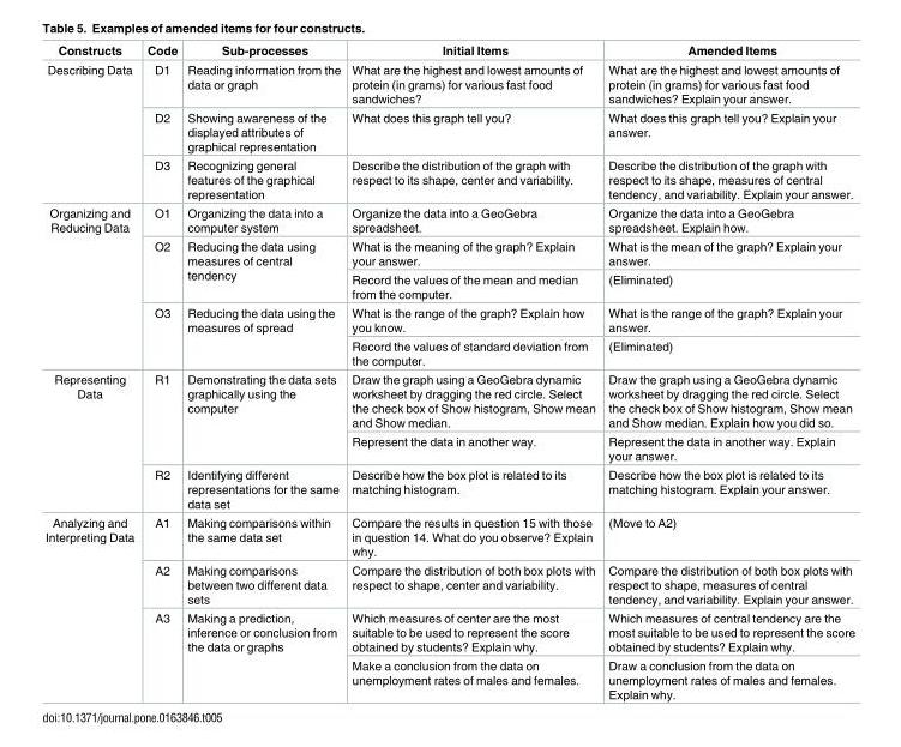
<table><thead><tr><td>Constructs</td><td>Code</td><td>Sub-processes</td><td>Initial Items</td><td>Amended Items</td></tr></thead><tbody><tr><td rowspan="3">Describing Data</td><td>D1</td><td>Reading information from the data or graph</td><td>What are the highest and lowest amounts of protein (in grams) for various fast food sandwiches?</td><td>What are the highest and lowest amounts of protein (in grams) for various fast food sandwiches? Explain your answer.</td></tr><tr><td>D2</td><td>Showing awareness of the displayed attributes of graphical representation</td><td>What does this graph tell you?</td><td>What does this graph tell you? Explain your answer.</td></tr><tr><td>D3</td><td>Recognizing general features of the graphical representation</td><td>Describe the distribution of the graph with respect to its shape, center and variability.</td><td>Describe the distribution of the graph with respect to its shape, measures of central tendency, and variability. Explain your answer.</td></tr><tr><td rowspan="5">Organizing and Reducing Data</td><td>O1</td><td>Organizing the data into a computer system</td><td>Organize the data into a GeoGebra spreadsheet.</td><td>Organize the data into a GeoGebra spreadsheet. Explain how.</td></tr><tr><td rowspan="2">O2</td><td rowspan="2">Reducing the data using measures of central tendency</td><td>What is the meaning of the graph? Explain your answer.</td><td>What is the mean of the graph? Explain your answer.</td></tr><tr><td>Record the values of the mean and median from the computer.</td><td>(Eliminated)</td></tr><tr><td rowspan="2">O3</td><td rowspan="2">Reducing the data using the measures of spread</td><td>What is the range of the graph? Explain how you know.</td><td>What is the range of the graph? Explain your answer.</td></tr><tr><td>Record the values of standard deviation from the computer.</td><td>(Eliminated)</td></tr><tr><td rowspan="3">Representing Data</td><td rowspan="2">R1</td><td rowspan="2">Demonstrating the data sets graphically using the computer</td><td>Draw the graph using a GeoGebra dynamic worksheet by dragging the red circle. Select the check box of Show histogram, Show mean and Show median.</td><td>Draw the graph using a GeoGebra dynamic worksheet by dragging the red circle. Select the check box of Show histogram, Show mean and Show median. Explain how you did so.</td></tr><tr><td>Represent the data in another way.</td><td>Represent the data in another way. Explain your answer.</td></tr><tr><td>R2</td><td>Identifying different representations for the same data set</td><td>Describe how the box plot is related to its matching histogram.</td><td>Describe how the box plot is related to its matching histogram. Explain your answer.</td></tr><tr><td rowspan="4">Analyzing and Interpreting Data</td><td>A1</td><td>Making comparisons within the same data set</td><td>Compare the results in question 15 with those in question 14. What do you observe? Explain why.</td><td>(Move to A2)</td></tr><tr><td>A2</td><td>Making comparisons between two different data sets</td><td>Compare the distribution of both box plots with respect to shape, center and variability.</td><td>Compare the distribution of both box plots with respect to shape, measures of central tendency, and variability. Explain your answer.</td></tr><tr><td rowspan="2">A3</td><td rowspan="2">Making a prediction, inference or conclusion from the data or graphs</td><td>Which measures of center are the most suitable to be used to represent the score obtained by students? Explain why.</td><td>Which measures of central tendency are the most suitable to be used to represent the score obtained by students? Explain why.</td></tr><tr><td>Make a conclusion from the data on unemployment rates of males and females.</td><td>Draw a conclusion from the data on unemployment rates of males and females. Explain why.</td></tr></tbody></table>